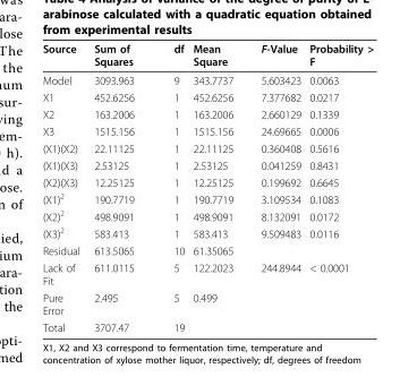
<table><thead><tr><td>Source</td><td>Sum of Squares</td><td>df</td><td>Mean Square</td><td>F-Value</td><td>Probability &gt; F</td></tr></thead><tbody><tr><td>Model</td><td>3093.963</td><td>9</td><td>343.7737</td><td>5.603423</td><td>0.0063</td></tr><tr><td>X1</td><td>452.6256</td><td>1</td><td>452.6256</td><td>7.377682</td><td>0.0217</td></tr><tr><td>X2</td><td>163.2006</td><td>1</td><td>163.2006</td><td>2.660129</td><td>0.1339</td></tr><tr><td>X3</td><td>1515.156</td><td>1</td><td>1515.156</td><td>24.69665</td><td>0.0006</td></tr><tr><td>(X1)(X2)</td><td>22.11125</td><td>1</td><td>22.11125</td><td>0.360408</td><td>0.5616</td></tr><tr><td>(X1)(X3)</td><td>2.53125</td><td>1</td><td>2.53125</td><td>0.041259</td><td>0.8431</td></tr><tr><td>(X2)(X3)</td><td>12.25125</td><td>1</td><td>12.25125</td><td>0.199692</td><td>0.6645</td></tr><tr><td>(X1)<sup>2</sup></td><td>190.7719</td><td>1</td><td>190.7719</td><td>3.109534</td><td>0.1083</td></tr><tr><td>(X2)<sup>2</sup></td><td>498.9091</td><td>1</td><td>498.9091</td><td>8.132091</td><td>0.0172</td></tr><tr><td>(X3)<sup>2</sup></td><td>583.413</td><td>1</td><td>583.413</td><td>9.509483</td><td>0.0116</td></tr><tr><td>Residual</td><td>613.5065</td><td>10</td><td>61.35065</td><td></td><td></td></tr><tr><td>Lack of Fit</td><td>611.0115</td><td>5</td><td>122.2023</td><td>244.8944</td><td>&lt; 0.0001</td></tr><tr><td>Pure Error</td><td>2.495</td><td>5</td><td>0.499</td><td></td><td></td></tr><tr><td>Total</td><td>3707.47</td><td>19</td><td></td><td></td><td></td></tr></tbody></table>